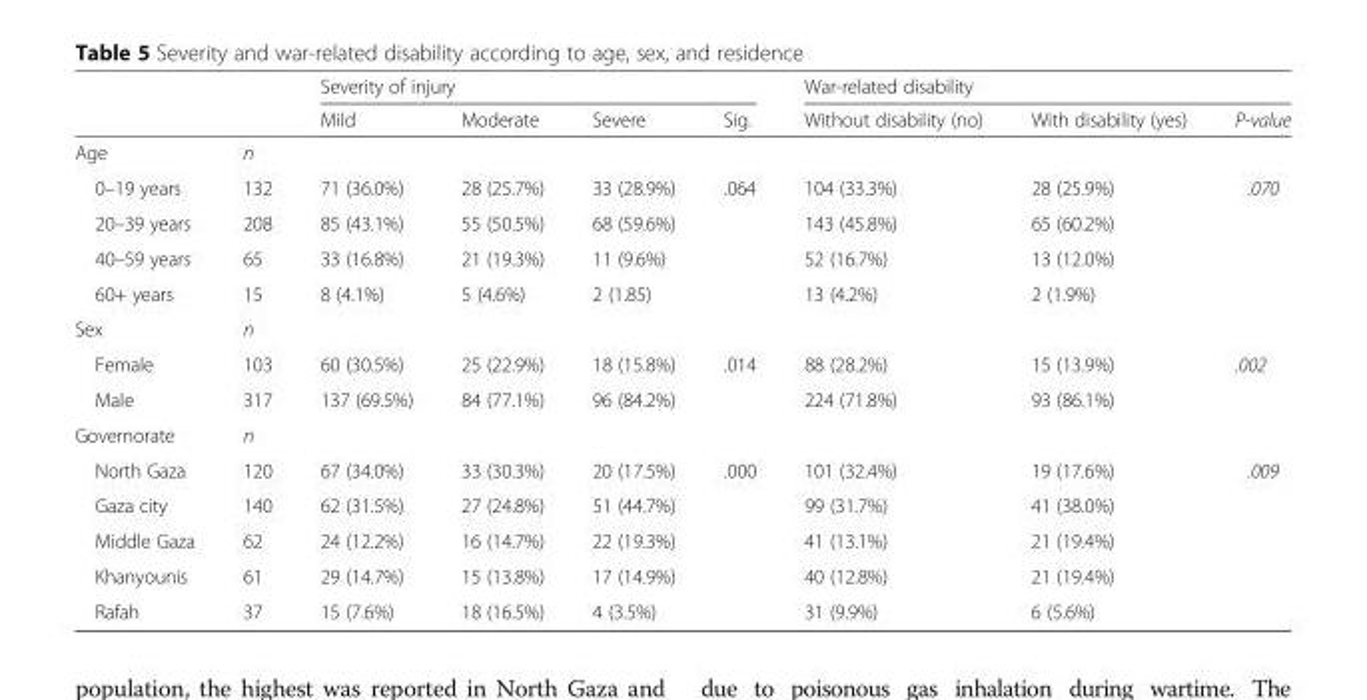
<table><thead><tr><td rowspan="2"></td><td rowspan="2"></td><td colspan="4">Severity of injury</td><td colspan="3">War-related disability</td></tr><tr><td>Mild</td><td>Moderate</td><td>Severe</td><td>Sig.</td><td>Without disability (no)</td><td>With disability (yes)</td><td>P-value</td></tr></thead><tbody><tr><td>Age</td><td>n</td><td colspan="7"></td></tr><tr><td>0–19 years</td><td>132</td><td>71 (36.0%)</td><td>28 (25.7%)</td><td>33 (28.9%)</td><td rowspan="4">.064</td><td>104 (33.3%)</td><td>28 (25.9%)</td><td rowspan="4">.070</td></tr><tr><td>20–39 years</td><td>208</td><td>85 (43.1%)</td><td>55 (50.5%)</td><td>68 (59.6%)</td><td>143 (45.8%)</td><td>65 (60.2%)</td></tr><tr><td>40–59 years</td><td>65</td><td>33 (16.8%)</td><td>21 (19.3%)</td><td>11 (9.6%)</td><td>52 (16.7%)</td><td>13 (12.0%)</td></tr><tr><td>60+ years</td><td>15</td><td>8 (4.1%)</td><td>5 (4.6%)</td><td>2 (1.85)</td><td>13 (4.2%)</td><td>2 (1.9%)</td></tr><tr><td>Sex</td><td>n</td><td colspan="7"></td></tr><tr><td>Female</td><td>103</td><td>60 (30.5%)</td><td>25 (22.9%)</td><td>18 (15.8%)</td><td rowspan="2">.014</td><td>88 (28.2%)</td><td>15 (13.9%)</td><td rowspan="2">.002</td></tr><tr><td>Male</td><td>317</td><td>137 (69.5%)</td><td>84 (77.1%)</td><td>96 (84.2%)</td><td>224 (71.8%)</td><td>93 (86.1%)</td></tr><tr><td>Governorate</td><td>n</td><td colspan="7"></td></tr><tr><td>North Gaza</td><td>120</td><td>67 (34.0%)</td><td>33 (30.3%)</td><td>20 (17.5%)</td><td rowspan="5">.000</td><td>101 (32.4%)</td><td>19 (17.6%)</td><td rowspan="5">.009</td></tr><tr><td>Gaza city</td><td>140</td><td>62 (31.5%)</td><td>27 (24.8%)</td><td>51 (44.7%)</td><td>99 (31.7%)</td><td>41 (38.0%)</td></tr><tr><td>Middle Gaza</td><td>62</td><td>24 (12.2%)</td><td>16 (14.7%)</td><td>22 (19.3%)</td><td>41 (13.1%)</td><td>21 (19.4%)</td></tr><tr><td>Khanyounis</td><td>61</td><td>29 (14.7%)</td><td>15 (13.8%)</td><td>17 (14.9%)</td><td>40 (12.8%)</td><td>21 (19.4%)</td></tr><tr><td>Rafah</td><td>37</td><td>15 (7.6%)</td><td>18 (16.5%)</td><td>4 (3.5%)</td><td>31 (9.9%)</td><td>6 (5.6%)</td></tr></tbody></table>